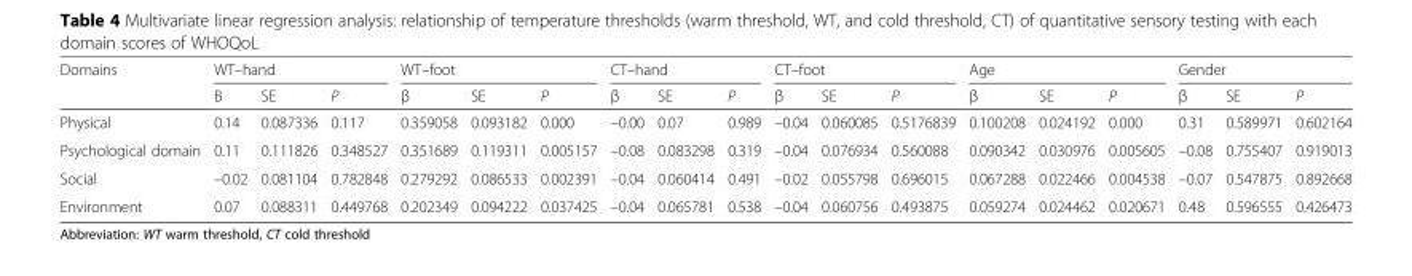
<table><thead><tr><td rowspan="2">Domains</td><td colspan="3">WT–hand</td><td colspan="3">WT–foot</td><td colspan="3">CT–hand</td><td colspan="3">CT–foot</td><td colspan="3">Age</td><td colspan="3">Gender</td></tr><tr><td>Β</td><td>SE</td><td>P</td><td>β</td><td>SE</td><td>P</td><td>β</td><td>SE</td><td>P</td><td>β</td><td>SE</td><td>P</td><td>β</td><td>SE</td><td>P</td><td>β</td><td>SE</td><td>P</td></tr></thead><tbody><tr><td>Physical</td><td>0.14</td><td>0.087336</td><td>0.117</td><td>0.359058</td><td>0.093182</td><td>0.000</td><td>–0.00</td><td>0.07</td><td>0.989</td><td>–0.04</td><td>0.060085</td><td>0.5176839</td><td>0.100208</td><td>0.024192</td><td>0.000</td><td>0.31</td><td>0.589971</td><td>0.602164</td></tr><tr><td>Psychological domain</td><td>0.11</td><td>0.111826</td><td>0.348527</td><td>0.351689</td><td>0.119311</td><td>0.005157</td><td>–0.08</td><td>0.083298</td><td>0.319</td><td>–0.04</td><td>0.076934</td><td>0.560088</td><td>0.090342</td><td>0.030976</td><td>0.005605</td><td>–0.08</td><td>0.755407</td><td>0.919013</td></tr><tr><td>Social</td><td>–0.02</td><td>0.081104</td><td>0.782848</td><td>0.279292</td><td>0.086533</td><td>0.002391</td><td>–0.04</td><td>0.060414</td><td>0.491</td><td>–0.02</td><td>0.055798</td><td>0.696015</td><td>0.067288</td><td>0.022466</td><td>0.004538</td><td>–0.07</td><td>0.547875</td><td>0.892668</td></tr><tr><td>Environment</td><td>0.07</td><td>0.088311</td><td>0.449768</td><td>0.202349</td><td>0.094222</td><td>0.037425</td><td>–0.04</td><td>0.065781</td><td>0.538</td><td>–0.04</td><td>0.060756</td><td>0.493875</td><td>0.059274</td><td>0.024462</td><td>0.020671</td><td>0.48</td><td>0.596555</td><td>0.426473</td></tr></tbody></table>